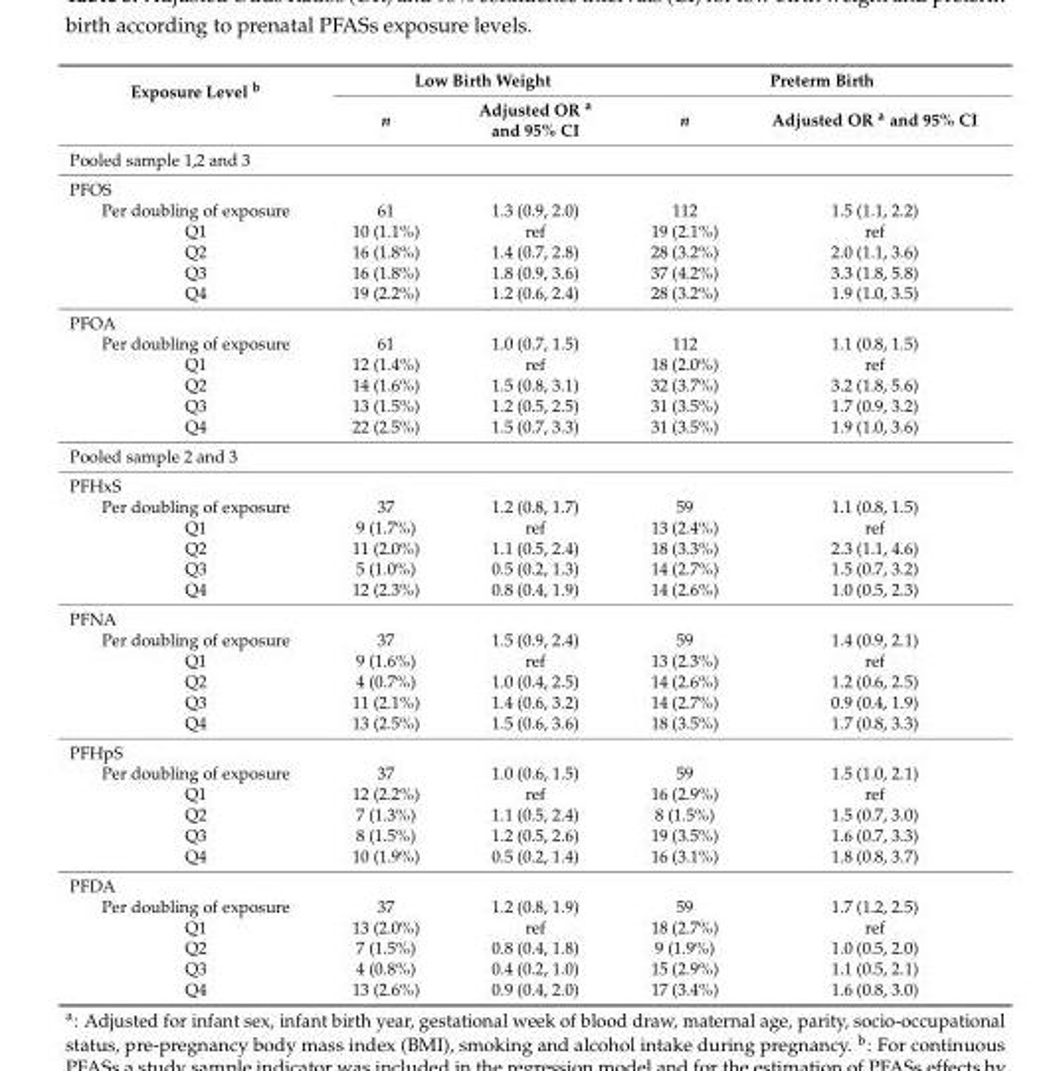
<table><thead><tr><td rowspan="2">Exposure Level <sup>b</sup></td><td colspan="2">Low Birth Weight</td><td colspan="2">Preterm Birth</td></tr><tr><td>n</td><td>Adjusted OR <sup>a</sup> and 95% CI</td><td>n</td><td>Adjusted OR <sup>a</sup> and 95% CI</td></tr></thead><tbody><tr><td colspan="5">Pooled sample 1,2 and 3</td></tr><tr><td colspan="5">PFOS</td></tr><tr><td>Per doubling of exposure</td><td>61</td><td>1.3 (0.9, 2.0)</td><td>112</td><td>1.5 (1.1, 2.2)</td></tr><tr><td>Q1</td><td>10 (1.1%)</td><td>ref</td><td>19 (2.1%)</td><td>ref</td></tr><tr><td>Q2</td><td>16 (1.8%)</td><td>1.4 (0.7, 2.8)</td><td>28 (3.2%)</td><td>2.0 (1.1, 3.6)</td></tr><tr><td>Q3</td><td>16 (1.8%)</td><td>1.8 (0.9, 3.6)</td><td>37 (4.2%)</td><td>3.3 (1.8, 5.8)</td></tr><tr><td>Q4</td><td>19 (2.2%)</td><td>1.2 (0.6, 2.4)</td><td>28 (3.2%)</td><td>1.9 (1.0, 3.5)</td></tr><tr><td colspan="5">PFOA</td></tr><tr><td>Per doubling of exposure</td><td>61</td><td>1.0 (0.7, 1.5)</td><td>112</td><td>1.1 (0.8, 1.5)</td></tr><tr><td>Q1</td><td>12 (1.4%)</td><td>ref</td><td>18 (2.0%)</td><td>ref</td></tr><tr><td>Q2</td><td>14 (1.6%)</td><td>1.5 (0.8, 3.1)</td><td>32 (3.7%)</td><td>3.2 (1.8, 5.6)</td></tr><tr><td>Q3</td><td>13 (1.5%)</td><td>1.2 (0.5, 2.5)</td><td>31 (3.5%)</td><td>1.7 (0.9, 3.2)</td></tr><tr><td>Q4</td><td>22 (2.5%)</td><td>1.5 (0.7, 3.3)</td><td>31 (3.5%)</td><td>1.9 (1.0, 3.6)</td></tr><tr><td colspan="5">Pooled sample 2 and 3</td></tr><tr><td colspan="5">PFHxS</td></tr><tr><td>Per doubling of exposure</td><td>37</td><td>1.2 (0.8, 1.7)</td><td>59</td><td>1.1 (0.8, 1.5)</td></tr><tr><td>Q1</td><td>9 (1.7%)</td><td>ref</td><td>13 (2.4%)</td><td>ref</td></tr><tr><td>Q2</td><td>11 (2.0%)</td><td>1.1 (0.5, 2.4)</td><td>18 (3.3%)</td><td>2.3 (1.1, 4.6)</td></tr><tr><td>Q3</td><td>5 (1.0%)</td><td>0.5 (0.2, 1.3)</td><td>14 (2.7%)</td><td>1.5 (0.7, 3.2)</td></tr><tr><td>Q4</td><td>12 (2.3%)</td><td>0.8 (0.4, 1.9)</td><td>14 (2.6%)</td><td>1.0 (0.5, 2.3)</td></tr><tr><td colspan="5">PFNA</td></tr><tr><td>Per doubling of exposure</td><td>37</td><td>1.5 (0.9, 2.4)</td><td>59</td><td>1.4 (0.9, 2.1)</td></tr><tr><td>Q1</td><td>9 (1.6%)</td><td>ref</td><td>13 (2.3%)</td><td>ref</td></tr><tr><td>Q2</td><td>4 (0.7%)</td><td>1.0 (0.4, 2.5)</td><td>14 (2.6%)</td><td>1.2 (0.6, 2.5)</td></tr><tr><td>Q3</td><td>11 (2.1%)</td><td>1.4 (0.6, 3.2)</td><td>14 (2.7%)</td><td>0.9 (0.4, 1.9)</td></tr><tr><td>Q4</td><td>13 (2.5%)</td><td>1.5 (0.6, 3.6)</td><td>18 (3.5%)</td><td>1.7 (0.8, 3.3)</td></tr><tr><td colspan="5">PFHpS</td></tr><tr><td>Per doubling of exposure</td><td>37</td><td>1.0 (0.6, 1.5)</td><td>59</td><td>1.5 (1.0, 2.1)</td></tr><tr><td>Q1</td><td>12 (2.2%)</td><td>ref</td><td>16 (2.9%)</td><td>ref</td></tr><tr><td>Q2</td><td>7 (1.3%)</td><td>1.1 (0.5, 2.4)</td><td>8 (1.5%)</td><td>1.5 (0.7, 3.0)</td></tr><tr><td>Q3</td><td>8 (1.5%)</td><td>1.2 (0.5, 2.6)</td><td>19 (3.5%)</td><td>1.6 (0.7, 3.3)</td></tr><tr><td>Q4</td><td>10 (1.9%)</td><td>0.5 (0.2, 1.4)</td><td>16 (3.1%)</td><td>1.8 (0.8, 3.7)</td></tr><tr><td colspan="5">PFDA</td></tr><tr><td>Per doubling of exposure</td><td>37</td><td>1.2 (0.8, 1.9)</td><td>59</td><td>1.7 (1.2, 2.5)</td></tr><tr><td>Q1</td><td>13 (2.0%)</td><td>ref</td><td>18 (2.7%)</td><td>ref</td></tr><tr><td>Q2</td><td>7 (1.5%)</td><td>0.8 (0.4, 1.8)</td><td>9 (1.9%)</td><td>1.0 (0.5, 2.0)</td></tr><tr><td>Q3</td><td>4 (0.8%)</td><td>0.4 (0.2, 1.0)</td><td>15 (2.9%)</td><td>1.1 (0.5, 2.1)</td></tr><tr><td>Q4</td><td>13 (2.6%)</td><td>0.9 (0.4, 2.0)</td><td>17 (3.4%)</td><td>1.6 (0.8, 3.0)</td></tr></tbody></table>